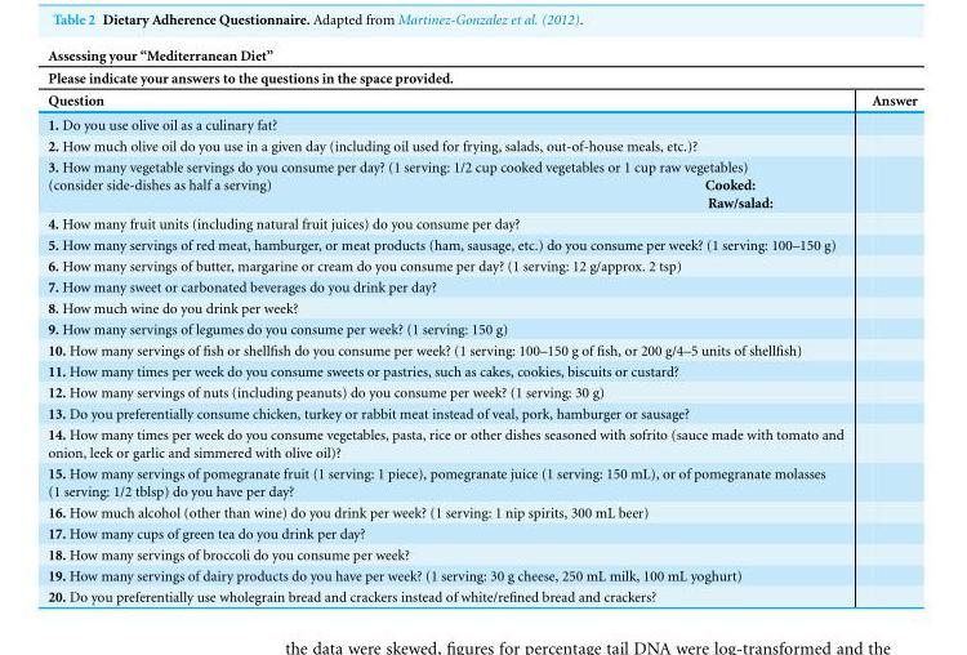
<table><thead><tr><td rowspan="2" colspan="2">Assessing your “Mediterranean Diet” Please indicate your answers to the questions in the space provided.</td></tr><tr></tr><tr><td>Question</td><td>Answer</td></tr></thead><tbody><tr><td colspan="2">1. Do you use olive oil as a culinary fat?</td></tr><tr><td colspan="2">2. How much olive oil do you use in a given day (including oil used for frying, salads, out-of-house meals, etc.)?</td></tr><tr><td colspan="2">3. How many vegetable servings do you consume per day? (1 serving: 1/2 cup cooked vegetables or 1 cup raw vegetables) (consider side-dishes as half a serving) Cooked: Raw/salad:</td></tr><tr><td colspan="2">4. How many fruit units (including natural fruit juices) do you consume per day?</td></tr><tr><td colspan="2">5. How many servings of red meat, hamburger, or meat products (ham, sausage, etc.) do you consume per week? (1 serving: 100–150 g)</td></tr><tr><td colspan="2">6. How many servings of butter, margarine or cream do you consume per day? (1 serving: 12 g/approx. 2 tsp)</td></tr><tr><td colspan="2">7. How many sweet or carbonated beverages do you drink per day?</td></tr><tr><td colspan="2">8. How much wine do you drink per week?</td></tr><tr><td colspan="2">9. How many servings of legumes do you consume per week? (1 serving: 150 g)</td></tr><tr><td colspan="2">10. How many servings of fish or shellfish do you consume per week? (1 serving: 100–150 g of fish, or 200 g/4–5 units of shellfish)</td></tr><tr><td colspan="2">11. How many times per week do you consume sweets or pastries, such as cakes, cookies, biscuits or custard?</td></tr><tr><td colspan="2">12. How many servings of nuts (including peanuts) do you consume per week? (1 serving: 30 g)</td></tr><tr><td colspan="2">13. Do you preferentially consume chicken, turkey or rabbit meat instead of veal, pork, hamburger or sausage?</td></tr><tr><td colspan="2">14. How many times per week do you consume vegetables, pasta, rice or other dishes seasoned with sofrito (sauce made with tomato and onion, leek or garlic and simmered with olive oil)?</td></tr><tr><td colspan="2">15. How many servings of pomegranate fruit (1 serving: 1 piece), pomegranate juice (1 serving: 150 mL), or of pomegranate molasses (1 serving: 1/2 tblsp) do you have per day?</td></tr><tr><td colspan="2">16. How much alcohol (other than wine) do you drink per week? (1 serving: 1 nip spirits, 300 mL beer)</td></tr><tr><td colspan="2">17. How many cups of green tea do you drink per day?</td></tr><tr><td colspan="2">18. How many servings of broccoli do you consume per week?</td></tr><tr><td colspan="2">19. How many servings of dairy products do you have per week? (1 serving: 30 g cheese, 250 mL milk, 100 mL yoghurt)</td></tr><tr><td>20. Do you preferentially use wholegrain bread and crackers instead of white/refined bread and crackers?</td><td></td></tr></tbody></table>